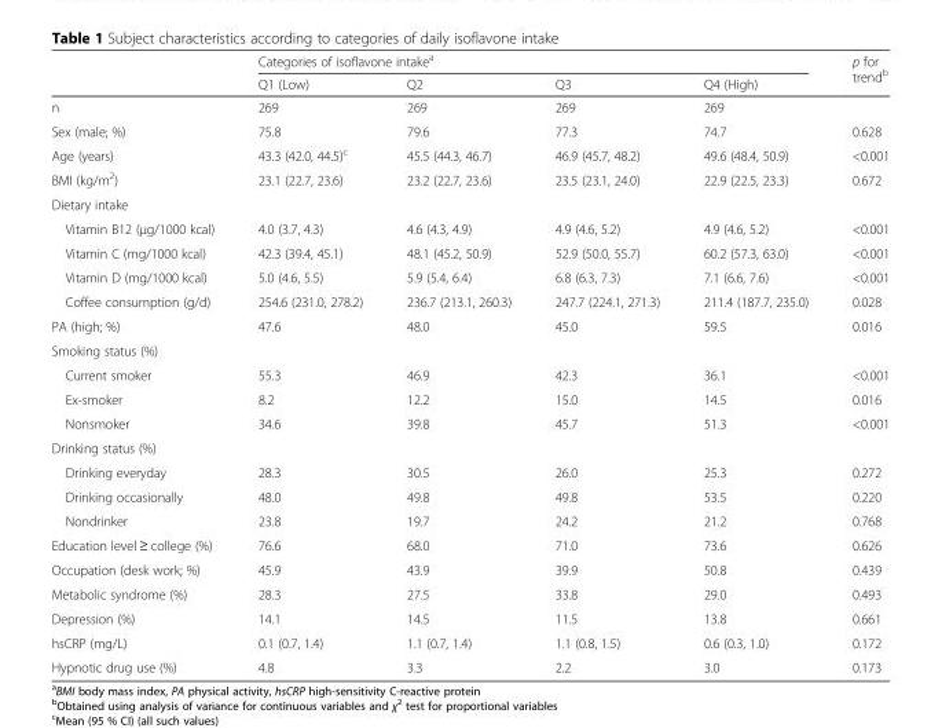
<table><thead><tr><td rowspan="2"></td><td colspan="4">Categories of isoflavone intake<sup>a</sup></td><td rowspan="2">p for trend<sup>b</sup></td></tr><tr><td>Q1 (Low)</td><td>Q2</td><td>Q3</td><td>Q4 (High)</td></tr></thead><tbody><tr><td>n</td><td>269</td><td>269</td><td>269</td><td>269</td><td></td></tr><tr><td>Sex (male; %)</td><td>75.8</td><td>79.6</td><td>77.3</td><td>74.7</td><td>0.628</td></tr><tr><td>Age (years)</td><td>43.3 (42.0, 44.5)<sup>c</sup></td><td>45.5 (44.3, 46.7)</td><td>46.9 (45.7, 48.2)</td><td>49.6 (48.4, 50.9)</td><td>&lt;0.001</td></tr><tr><td>BMI (kg/m<sup>2</sup>)</td><td>23.1 (22.7, 23.6)</td><td>23.2 (22.7, 23.6)</td><td>23.5 (23.1, 24.0)</td><td>22.9 (22.5, 23.3)</td><td>0.672</td></tr><tr><td colspan="6">Dietary intake</td></tr><tr><td>Vitamin B12 (μg/1000 kcal)</td><td>4.0 (3.7, 4.3)</td><td>4.6 (4.3, 4.9)</td><td>4.9 (4.6, 5.2)</td><td>4.9 (4.6, 5.2)</td><td>&lt;0.001</td></tr><tr><td>Vitamin C (mg/1000 kcal)</td><td>42.3 (39.4, 45.1)</td><td>48.1 (45.2, 50.9)</td><td>52.9 (50.0, 55.7)</td><td>60.2 (57.3, 63.0)</td><td>&lt;0.001</td></tr><tr><td>Vitamin D (mg/1000 kcal)</td><td>5.0 (4.6, 5.5)</td><td>5.9 (5.4, 6.4)</td><td>6.8 (6.3, 7.3)</td><td>7.1 (6.6, 7.6)</td><td>&lt;0.001</td></tr><tr><td>Coffee consumption (g/d)</td><td>254.6 (231.0, 278.2)</td><td>236.7 (213.1, 260.3)</td><td>247.7 (224.1, 271.3)</td><td>211.4 (187.7, 235.0)</td><td>0.028</td></tr><tr><td>PA (high; %)</td><td>47.6</td><td>48.0</td><td>45.0</td><td>59.5</td><td>0.016</td></tr><tr><td colspan="6">Smoking status (%)</td></tr><tr><td>Current smoker</td><td>55.3</td><td>46.9</td><td>42.3</td><td>36.1</td><td>&lt;0.001</td></tr><tr><td>Ex-smoker</td><td>8.2</td><td>12.2</td><td>15.0</td><td>14.5</td><td>0.016</td></tr><tr><td>Nonsmoker</td><td>34.6</td><td>39.8</td><td>45.7</td><td>51.3</td><td>&lt;0.001</td></tr><tr><td colspan="6">Drinking status (%)</td></tr><tr><td>Drinking everyday</td><td>28.3</td><td>30.5</td><td>26.0</td><td>25.3</td><td>0.272</td></tr><tr><td>Drinking occasionally</td><td>48.0</td><td>49.8</td><td>49.8</td><td>53.5</td><td>0.220</td></tr><tr><td>Nondrinker</td><td>23.8</td><td>19.7</td><td>24.2</td><td>21.2</td><td>0.768</td></tr><tr><td>Education level ≥ college (%)</td><td>76.6</td><td>68.0</td><td>71.0</td><td>73.6</td><td>0.626</td></tr><tr><td>Occupation (desk work; %)</td><td>45.9</td><td>43.9</td><td>39.9</td><td>50.8</td><td>0.439</td></tr><tr><td>Metabolic syndrome (%)</td><td>28.3</td><td>27.5</td><td>33.8</td><td>29.0</td><td>0.493</td></tr><tr><td>Depression (%)</td><td>14.1</td><td>14.5</td><td>11.5</td><td>13.8</td><td>0.661</td></tr><tr><td>hsCRP (mg/L)</td><td>0.1 (0.7, 1.4)</td><td>1.1 (0.7, 1.4)</td><td>1.1 (0.8, 1.5)</td><td>0.6 (0.3, 1.0)</td><td>0.172</td></tr><tr><td>Hypnotic drug use (%)</td><td>4.8</td><td>3.3</td><td>2.2</td><td>3.0</td><td>0.173</td></tr></tbody></table>